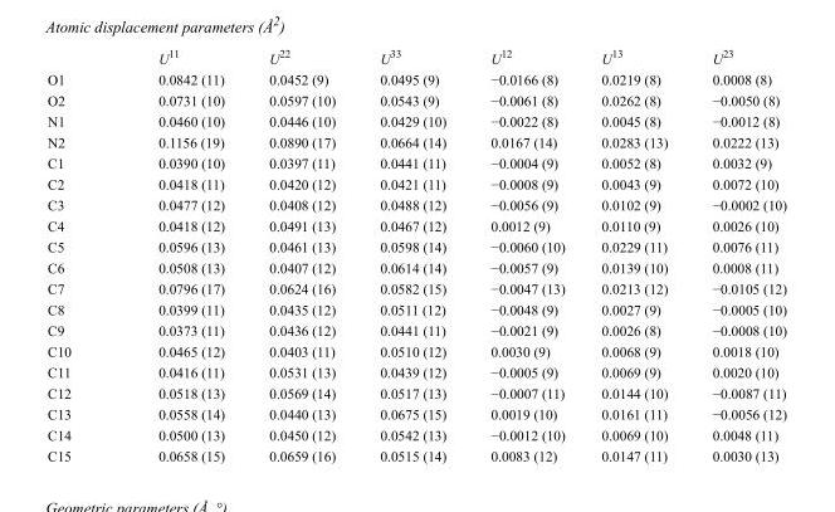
<table><thead><tr><td></td><td>U<sup>11</sup></td><td>U<sup>22</sup></td><td>U<sup>33</sup></td><td>U<sup>12</sup></td><td>U<sup>13</sup></td><td>U<sup>23</sup></td></tr></thead><tbody><tr><td>O1</td><td>0.0842 (11)</td><td>0.0452 (9)</td><td>0.0495 (9)</td><td>−0.0166 (8)</td><td>0.0219 (8)</td><td>0.0008 (8)</td></tr><tr><td>O2</td><td>0.0731 (10)</td><td>0.0597 (10)</td><td>0.0543 (9)</td><td>−0.0061 (8)</td><td>0.0262 (8)</td><td>−0.0050 (8)</td></tr><tr><td>N1</td><td>0.0460 (10)</td><td>0.0446 (10)</td><td>0.0429 (10)</td><td>−0.0022 (8)</td><td>0.0045 (8)</td><td>−0.0012 (8)</td></tr><tr><td>N2</td><td>0.1156 (19)</td><td>0.0890 (17)</td><td>0.0664 (14)</td><td>0.0167 (14)</td><td>0.0283 (13)</td><td>0.0222 (13)</td></tr><tr><td>C1</td><td>0.0390 (10)</td><td>0.0397 (11)</td><td>0.0441 (11)</td><td>−0.0004 (9)</td><td>0.0052 (8)</td><td>0.0032 (9)</td></tr><tr><td>C2</td><td>0.0418 (11)</td><td>0.0420 (12)</td><td>0.0421 (11)</td><td>−0.0008 (9)</td><td>0.0043 (9)</td><td>0.0072 (10)</td></tr><tr><td>C3</td><td>0.0477 (12)</td><td>0.0408 (12)</td><td>0.0488 (12)</td><td>−0.0056 (9)</td><td>0.0102 (9)</td><td>−0.0002 (10)</td></tr><tr><td>C4</td><td>0.0418 (12)</td><td>0.0491 (13)</td><td>0.0467 (12)</td><td>0.0012 (9)</td><td>0.0110 (9)</td><td>0.0026 (10)</td></tr><tr><td>C5</td><td>0.0596 (13)</td><td>0.0461 (13)</td><td>0.0598 (14)</td><td>−0.0060 (10)</td><td>0.0229 (11)</td><td>0.0076 (11)</td></tr><tr><td>C6</td><td>0.0508 (13)</td><td>0.0407 (12)</td><td>0.0614 (14)</td><td>−0.0057 (9)</td><td>0.0139 (10)</td><td>0.0008 (11)</td></tr><tr><td>C7</td><td>0.0796 (17)</td><td>0.0624 (16)</td><td>0.0582 (15)</td><td>−0.0047 (13)</td><td>0.0213 (12)</td><td>−0.0105 (12)</td></tr><tr><td>C8</td><td>0.0399 (11)</td><td>0.0435 (12)</td><td>0.0511 (12)</td><td>−0.0048 (9)</td><td>0.0027 (9)</td><td>−0.0005 (10)</td></tr><tr><td>C9</td><td>0.0373 (11)</td><td>0.0436 (12)</td><td>0.0441 (11)</td><td>−0.0021 (9)</td><td>0.0026 (8)</td><td>−0.0008 (10)</td></tr><tr><td>C10</td><td>0.0465 (12)</td><td>0.0403 (11)</td><td>0.0510 (12)</td><td>0.0030 (9)</td><td>0.0068 (9)</td><td>0.0018 (10)</td></tr><tr><td>C11</td><td>0.0416 (11)</td><td>0.0531 (13)</td><td>0.0439 (12)</td><td>−0.0005 (9)</td><td>0.0069 (9)</td><td>0.0020 (10)</td></tr><tr><td>C12</td><td>0.0518 (13)</td><td>0.0569 (14)</td><td>0.0517 (13)</td><td>−0.0007 (11)</td><td>0.0144 (10)</td><td>−0.0087 (11)</td></tr><tr><td>C13</td><td>0.0558 (14)</td><td>0.0440 (13)</td><td>0.0675 (15)</td><td>0.0019 (10)</td><td>0.0161 (11)</td><td>−0.0056 (12)</td></tr><tr><td>C14</td><td>0.0500 (13)</td><td>0.0450 (12)</td><td>0.0542 (13)</td><td>−0.0012 (10)</td><td>0.0069 (10)</td><td>0.0048 (11)</td></tr><tr><td>C15</td><td>0.0658 (15)</td><td>0.0659 (16)</td><td>0.0515 (14)</td><td>0.0083 (12)</td><td>0.0147 (11)</td><td>0.0030 (13)</td></tr></tbody></table>